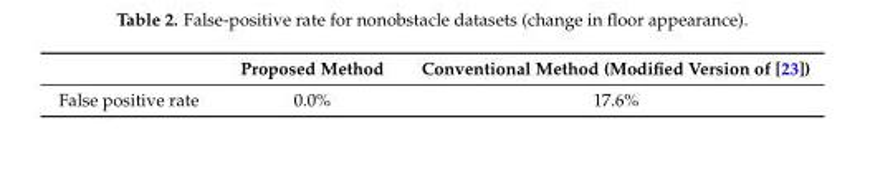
<table><thead><tr><td></td><td>Proposed Method</td><td>Conventional Method (Modified Version of [23])</td></tr></thead><tbody><tr><td>False positive rate</td><td>0.0%</td><td>17.6%</td></tr></tbody></table>